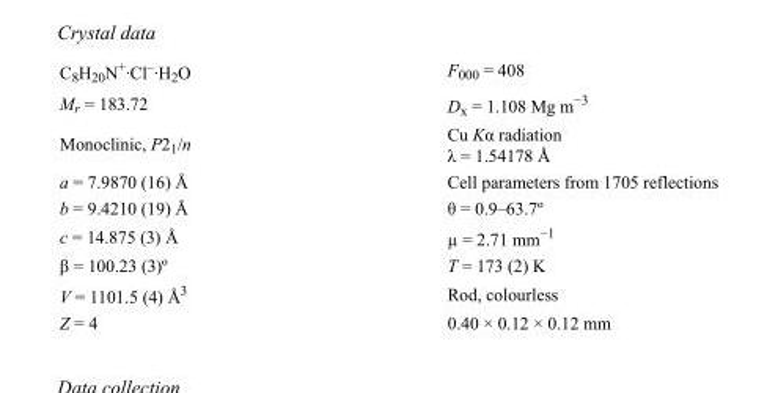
<table><tbody><tr><td>C<sub>8</sub>H<sub>20</sub>N<sup>+</sup>·Cl<sup>–</sup>·H<sub>2</sub>O</td><td>F000 = 408</td></tr><tr><td>M<sub>r</sub> = 183.72</td><td>D<sub>x</sub> = 1.108 Mg m<sup>−3</sup></td></tr><tr><td>Monoclinic, P2<sub>1</sub>/n</td><td>Cu Kα radiation λ = 1.54178 Å</td></tr><tr><td>a = 7.9870 (16) Å</td><td>Cell parameters from 1705 reflections</td></tr><tr><td>b = 9.4210 (19) Å</td><td>θ = 0.9–63.7º</td></tr><tr><td>c = 14.875 (3) Å</td><td>µ = 2.71 mm<sup>−1</sup></td></tr><tr><td>β = 100.23 (3)º</td><td>T = 173 (2) K</td></tr><tr><td>V = 1101.5 (4) Å<sup>3</sup></td><td>Rod, colourless</td></tr><tr><td>Z = 4</td><td>0.40 × 0.12 × 0.12 mm</td></tr></tbody></table>